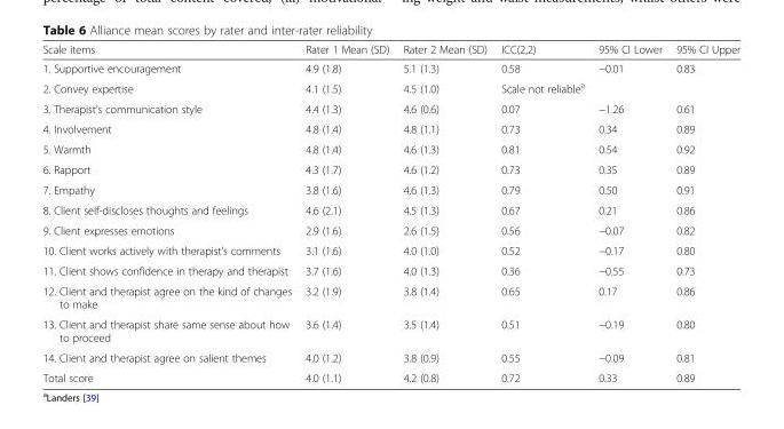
<table><thead><tr><td>Scale items</td><td>Rater 1 Mean (SD)</td><td>Rater 2 Mean (SD)</td><td>ICC(2,2)</td><td>95% CI Lower</td><td>95% CI Upper</td></tr></thead><tbody><tr><td>1. Supportive encouragement</td><td>4.9 (1.8)</td><td>5.1 (1.3)</td><td>0.58</td><td>−0.01</td><td>0.83</td></tr><tr><td>2. Convey expertise</td><td>4.1 (1.5)</td><td>4.5 (1.0)</td><td>Scale not reliable<sup>a</sup></td><td></td><td></td></tr><tr><td>3. Therapist’s communication style</td><td>4.4 (1.3)</td><td>4.6 (0.6)</td><td>0.07</td><td>−1.26</td><td>0.61</td></tr><tr><td>4. Involvement</td><td>4.8 (1.4)</td><td>4.8 (1.1)</td><td>0.73</td><td>0.34</td><td>0.89</td></tr><tr><td>5. Warmth</td><td>4.8 (1.4)</td><td>4.6 (1.3)</td><td>0.81</td><td>0.54</td><td>0.92</td></tr><tr><td>6. Rapport</td><td>4.3 (1.7)</td><td>4.6 (1.2)</td><td>0.73</td><td>0.35</td><td>0.89</td></tr><tr><td>7. Empathy</td><td>3.8 (1.6)</td><td>4.6 (1.3)</td><td>0.79</td><td>0.50</td><td>0.91</td></tr><tr><td>8. Client self-discloses thoughts and feelings</td><td>4.6 (2.1)</td><td>4.5 (1.3)</td><td>0.67</td><td>0.21</td><td>0.86</td></tr><tr><td>9. Client expresses emotions</td><td>2.9 (1.6)</td><td>2.6 (1.5)</td><td>0.56</td><td>−0.07</td><td>0.82</td></tr><tr><td>10. Client works actively with therapist’s comments</td><td>3.1 (1.6)</td><td>4.0 (1.0)</td><td>0.52</td><td>−0.17</td><td>0.80</td></tr><tr><td>11. Client shows confidence in therapy and therapist</td><td>3.7 (1.6)</td><td>4.0 (1.3)</td><td>0.36</td><td>−0.55</td><td>0.73</td></tr><tr><td>12. Client and therapist agree on the kind of changes to make</td><td>3.2 (1.9)</td><td>3.8 (1.4)</td><td>0.65</td><td>0.17</td><td>0.86</td></tr><tr><td>13. Client and therapist share same sense about how to proceed</td><td>3.6 (1.4)</td><td>3.5 (1.4)</td><td>0.51</td><td>−0.19</td><td>0.80</td></tr><tr><td>14. Client and therapist agree on salient themes</td><td>4.0 (1.2)</td><td>3.8 (0.9)</td><td>0.55</td><td>−0.09</td><td>0.81</td></tr><tr><td>Total score</td><td>4.0 (1.1)</td><td>4.2 (0.8)</td><td>0.72</td><td>0.33</td><td>0.89</td></tr></tbody></table>